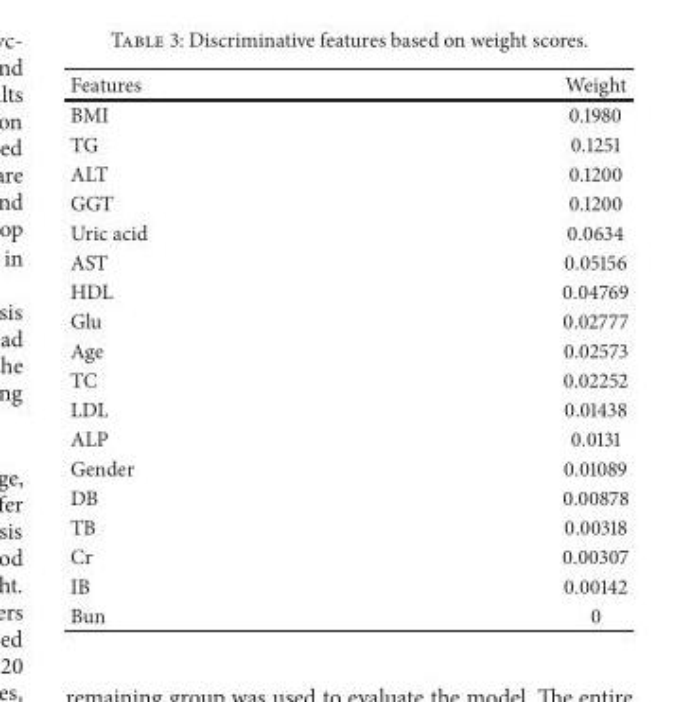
<table><thead><tr><td>Features</td><td>Weight</td></tr></thead><tbody><tr><td>BMI</td><td>0.1980</td></tr><tr><td>TG</td><td>0.1251</td></tr><tr><td>ALT</td><td>0.1200</td></tr><tr><td>GGT</td><td>0.1200</td></tr><tr><td>Uric acid</td><td>0.0634</td></tr><tr><td>AST</td><td>0.05156</td></tr><tr><td>HDL</td><td>0.04769</td></tr><tr><td>Glu</td><td>0.02777</td></tr><tr><td>Age</td><td>0.02573</td></tr><tr><td>TC</td><td>0.02252</td></tr><tr><td>LDL</td><td>0.01438</td></tr><tr><td>ALP</td><td>0.0131</td></tr><tr><td>Gender</td><td>0.01089</td></tr><tr><td>DB</td><td>0.00878</td></tr><tr><td>TB</td><td>0.00318</td></tr><tr><td>Cr</td><td>0.00307</td></tr><tr><td>IB</td><td>0.00142</td></tr><tr><td>Bun</td><td>0</td></tr></tbody></table>